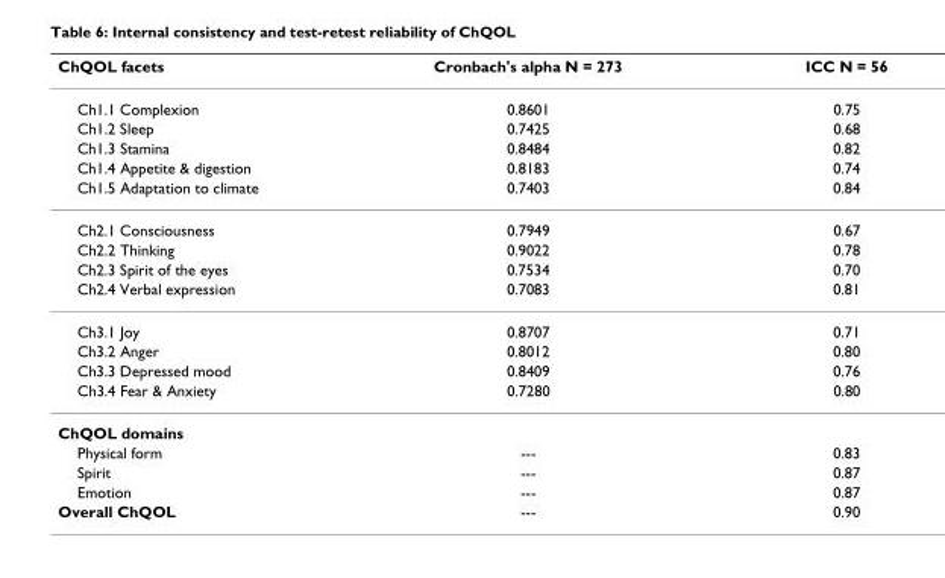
<table><thead><tr><td>ChQOL facets</td><td>Cronbach&#x27;s alpha N = 273</td><td>ICC N = 56</td></tr></thead><tbody><tr><td>Ch1.1 Complexion</td><td>0.8601</td><td>0.75</td></tr><tr><td>Ch1.2 Sleep</td><td>0.7425</td><td>0.68</td></tr><tr><td>Ch1.3 Stamina</td><td>0.8484</td><td>0.82</td></tr><tr><td>Ch1.4 Appetite &amp; digestion</td><td>0.8183</td><td>0.74</td></tr><tr><td>Ch1.5 Adaptation to climate</td><td>0.7403</td><td>0.84</td></tr><tr><td>Ch2.1 Consciousness</td><td>0.7949</td><td>0.67</td></tr><tr><td>Ch2.2 Thinking</td><td>0.9022</td><td>0.78</td></tr><tr><td>Ch2.3 Spirit of the eyes</td><td>0.7534</td><td>0.70</td></tr><tr><td>Ch2.4 Verbal expression</td><td>0.7083</td><td>0.81</td></tr><tr><td>Ch3.1 Joy</td><td>0.8707</td><td>0.71</td></tr><tr><td>Ch3.2 Anger</td><td>0.8012</td><td>0.80</td></tr><tr><td>Ch3.3 Depressed mood</td><td>0.8409</td><td>0.76</td></tr><tr><td>Ch3.4 Fear &amp; Anxiety</td><td>0.7280</td><td>0.80</td></tr><tr><td colspan="3">ChQOL domains</td></tr><tr><td>Physical form</td><td>---</td><td>0.83</td></tr><tr><td>Spirit</td><td>---</td><td>0.87</td></tr><tr><td>Emotion</td><td>---</td><td>0.87</td></tr><tr><td>Overall ChQOL</td><td>---</td><td>0.90</td></tr></tbody></table>